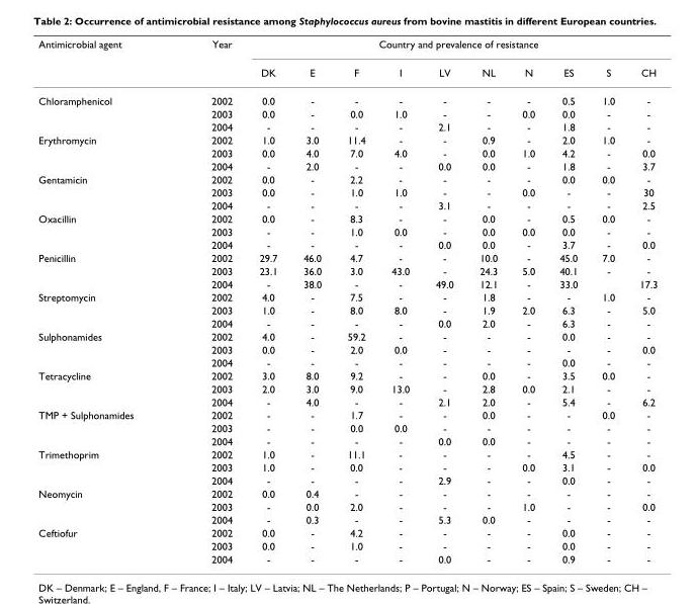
<table><thead><tr><td rowspan="2">Antimicrobial agent</td><td rowspan="2">Year</td><td colspan="10">Country and prevalence of resistance</td></tr><tr><td>DK</td><td>E</td><td>F</td><td>I</td><td>LV</td><td>NL</td><td>N</td><td>ES</td><td>S</td><td>CH</td></tr></thead><tbody><tr><td rowspan="3">Chloramphenicol</td><td>2002</td><td>0.0</td><td>-</td><td>-</td><td>-</td><td>-</td><td>-</td><td>-</td><td>0.5</td><td>1.0</td><td>-</td></tr><tr><td>2003</td><td>0.0</td><td>-</td><td>0.0</td><td>1.0</td><td>-</td><td>-</td><td>0.0</td><td>0.0</td><td>-</td><td>-</td></tr><tr><td>2004</td><td>-</td><td>-</td><td>-</td><td>-</td><td>2.1</td><td>-</td><td>-</td><td>1.8</td><td>-</td><td>-</td></tr><tr><td rowspan="3">Erythromycin</td><td>2002</td><td>1.0</td><td>3.0</td><td>11.4</td><td>-</td><td>-</td><td>0.9</td><td>-</td><td>2.0</td><td>1.0</td><td>-</td></tr><tr><td>2003</td><td>0.0</td><td>4.0</td><td>7.0</td><td>4.0</td><td>-</td><td>0.0</td><td>1.0</td><td>4.2</td><td>-</td><td>0.0</td></tr><tr><td>2004</td><td>-</td><td>2.0</td><td>-</td><td>-</td><td>0.0</td><td>0.0</td><td>-</td><td>1.8</td><td>-</td><td>3.7</td></tr><tr><td rowspan="3">Gentamicin</td><td>2002</td><td>0.0</td><td>-</td><td>2.2</td><td>-</td><td>-</td><td>-</td><td>-</td><td>0.0</td><td>0.0</td><td>-</td></tr><tr><td>2003</td><td>0.0</td><td>-</td><td>1.0</td><td>1.0</td><td>-</td><td>-</td><td>0.0</td><td>-</td><td>-</td><td>30</td></tr><tr><td>2004</td><td>-</td><td>-</td><td>-</td><td>-</td><td>3.1</td><td>-</td><td>-</td><td>-</td><td>-</td><td>2.5</td></tr><tr><td rowspan="3">Oxacillin</td><td>2002</td><td>0.0</td><td>-</td><td>8.3</td><td>-</td><td>-</td><td>0.0</td><td>-</td><td>0.5</td><td>0.0</td><td>-</td></tr><tr><td>2003</td><td>-</td><td>-</td><td>1.0</td><td>0.0</td><td>-</td><td>0.0</td><td>0.0</td><td>0.0</td><td>-</td><td>-</td></tr><tr><td>2004</td><td>-</td><td>-</td><td>-</td><td>-</td><td>0.0</td><td>0.0</td><td>-</td><td>3.7</td><td>-</td><td>0.0</td></tr><tr><td rowspan="3">Penicillin</td><td>2002</td><td>29.7</td><td>46.0</td><td>4.7</td><td>-</td><td>-</td><td>10.0</td><td>-</td><td>45.0</td><td>7.0</td><td>-</td></tr><tr><td>2003</td><td>23.1</td><td>36.0</td><td>3.0</td><td>43.0</td><td>-</td><td>24.3</td><td>5.0</td><td>40.1</td><td>-</td><td>-</td></tr><tr><td>2004</td><td>-</td><td>38.0</td><td>-</td><td>-</td><td>49.0</td><td>12.1</td><td>-</td><td>33.0</td><td></td><td>17.3</td></tr><tr><td rowspan="3">Streptomycin</td><td>2002</td><td>4.0</td><td>-</td><td>7.5</td><td>-</td><td>-</td><td>1.8</td><td>-</td><td>-</td><td>1.0</td><td>-</td></tr><tr><td>2003</td><td>1.0</td><td>-</td><td>8.0</td><td>8.0</td><td>-</td><td>1.9</td><td>2.0</td><td>6.3</td><td>-</td><td>5.0</td></tr><tr><td>2004</td><td>-</td><td>-</td><td>-</td><td>-</td><td>0.0</td><td>2.0</td><td>-</td><td>6.3</td><td>-</td><td>-</td></tr><tr><td rowspan="3">Sulphonamides</td><td>2002</td><td>4.0</td><td>-</td><td>59.2</td><td>-</td><td>-</td><td>-</td><td>-</td><td>0.0</td><td>-</td><td>-</td></tr><tr><td>2003</td><td>0.0</td><td>-</td><td>2.0</td><td>0.0</td><td>-</td><td>-</td><td>-</td><td>-</td><td>-</td><td>0.0</td></tr><tr><td>2004</td><td>-</td><td>-</td><td>-</td><td>-</td><td>-</td><td>-</td><td>-</td><td>0.0</td><td>-</td><td>-</td></tr><tr><td rowspan="3">Tetracycline</td><td>2002</td><td>3.0</td><td>8.0</td><td>9.2</td><td>-</td><td>-</td><td>0.0</td><td>-</td><td>3.5</td><td>0.0</td><td>-</td></tr><tr><td>2003</td><td>2.0</td><td>3.0</td><td>9.0</td><td>13.0</td><td>-</td><td>2.8</td><td>0.0</td><td>2.1</td><td>-</td><td>-</td></tr><tr><td>2004</td><td>-</td><td>4.0</td><td>-</td><td>-</td><td>2.1</td><td>2.0</td><td>-</td><td>5.4</td><td>-</td><td>6.2</td></tr><tr><td rowspan="3">TMP + Sulphonamides</td><td>2002</td><td>-</td><td>-</td><td>1.7</td><td>-</td><td>-</td><td>0.0</td><td>-</td><td>-</td><td>0.0</td><td>-</td></tr><tr><td>2003</td><td>-</td><td>-</td><td>0.0</td><td>0.0</td><td>-</td><td>-</td><td>-</td><td>-</td><td>-</td><td>-</td></tr><tr><td>2004</td><td>-</td><td>-</td><td>-</td><td>-</td><td>0.0</td><td>0.0</td><td>-</td><td>-</td><td>-</td><td>-</td></tr><tr><td rowspan="3">Trimethoprim</td><td>2002</td><td>1.0</td><td>-</td><td>11.1</td><td>-</td><td>-</td><td>-</td><td>-</td><td>4.5</td><td>-</td><td>-</td></tr><tr><td>2003</td><td>1.0</td><td>-</td><td>0.0</td><td>-</td><td>-</td><td>-</td><td>0.0</td><td>3.1</td><td>-</td><td>0.0</td></tr><tr><td>2004</td><td>-</td><td>-</td><td>-</td><td>-</td><td>2.9</td><td>-</td><td>-</td><td>0.0</td><td>-</td><td>-</td></tr><tr><td rowspan="3">Neomycin</td><td>2002</td><td>0.0</td><td>0.4</td><td>-</td><td>-</td><td>-</td><td>-</td><td>-</td><td>-</td><td>-</td><td>-</td></tr><tr><td>2003</td><td>-</td><td>0.0</td><td>2.0</td><td>-</td><td>-</td><td>-</td><td>1.0</td><td>-</td><td>-</td><td>0.0</td></tr><tr><td>2004</td><td>-</td><td>0.3</td><td>-</td><td>-</td><td>5.3</td><td>0.0</td><td>-</td><td>-</td><td>-</td><td>-</td></tr><tr><td rowspan="3">Ceftiofur</td><td>2002</td><td>0.0</td><td>-</td><td>4.2</td><td>-</td><td>-</td><td>-</td><td>-</td><td>0.0</td><td>-</td><td>-</td></tr><tr><td>2003</td><td>0.0</td><td>-</td><td>1.0</td><td>-</td><td>-</td><td>-</td><td>-</td><td>0.0</td><td>-</td><td>-</td></tr><tr><td>2004</td><td>-</td><td>-</td><td>-</td><td>-</td><td>0.0</td><td>-</td><td>-</td><td>0.9</td><td>-</td><td>-</td></tr></tbody></table>